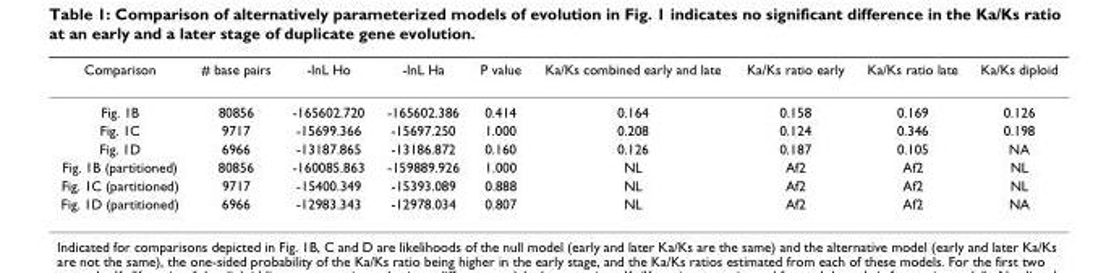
<table><thead><tr><td>Comparison</td><td># base pairs</td><td>-lnL Ho</td><td>-lnL Ha</td><td>P value</td><td>Ka/Ks combined early and late</td><td>Ka/Ks ratio early</td><td>Ka/Ks ratio late</td><td>Ka/Ks diploid</td></tr></thead><tbody><tr><td>Fig. 1B</td><td>80856</td><td>-165602.720</td><td>-165602.386</td><td>0.414</td><td>0.164</td><td>0.158</td><td>0.169</td><td>0.126</td></tr><tr><td>Fig. 1C</td><td>9717</td><td>-15699.366</td><td>-15697.250</td><td>1.000</td><td>0.208</td><td>0.124</td><td>0.346</td><td>0.198</td></tr><tr><td>Fig. 1D</td><td>6966</td><td>-13187.865</td><td>-13186.872</td><td>0.160</td><td>0.126</td><td>0.187</td><td>0.105</td><td>NA</td></tr><tr><td>Fig. 1B (partitioned)</td><td>80856</td><td>-160085.863</td><td>-159889.926</td><td>1.000</td><td>NL</td><td>Af2</td><td>Af2</td><td>NL</td></tr><tr><td>Fig. 1C (partitioned)</td><td>9717</td><td>-15400.349</td><td>-15393.089</td><td>0.888</td><td>NL</td><td>Af2</td><td>Af2</td><td>NL</td></tr><tr><td>Fig. 1D (partitioned)</td><td>6966</td><td>-12983.343</td><td>-12978.034</td><td>0.807</td><td>NL</td><td>Af2</td><td>Af2</td><td>NA</td></tr></tbody></table>